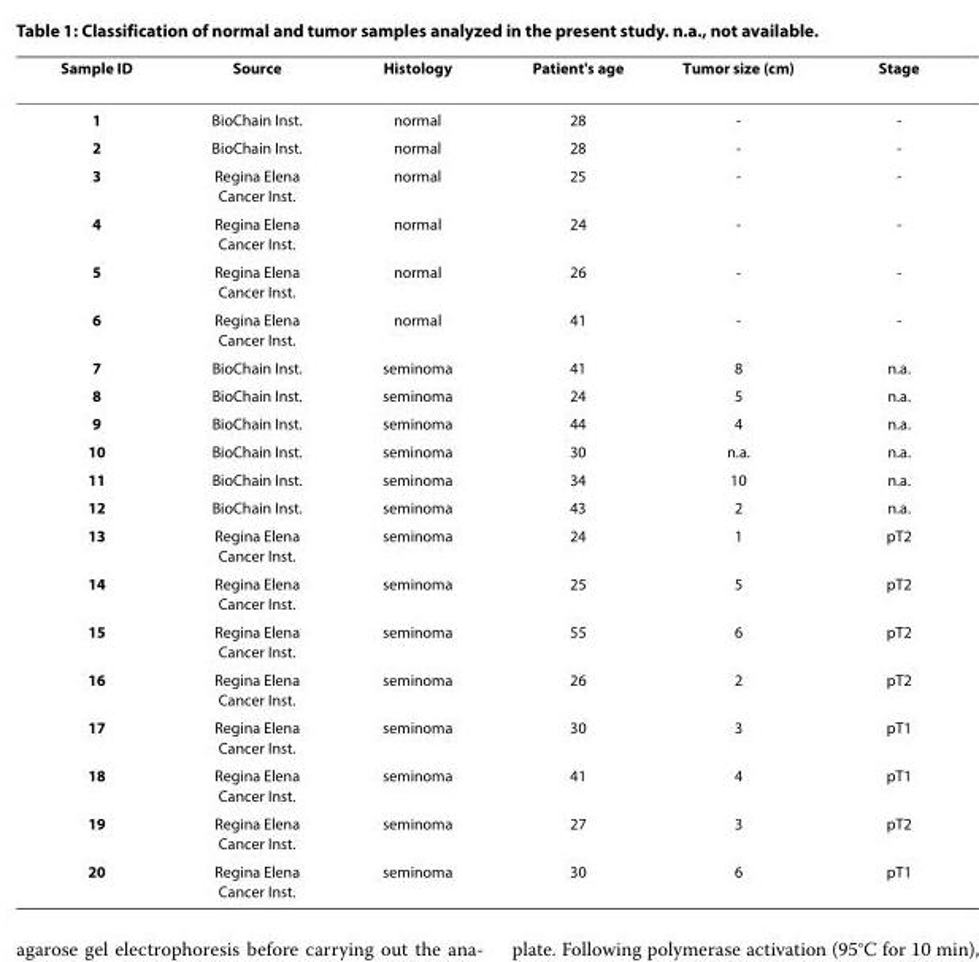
<table><thead><tr><td>Sample ID</td><td>Source</td><td>Histology</td><td>Patient&#x27;s age</td><td>Tumor size (cm)</td><td>Stage</td></tr></thead><tbody><tr><td>1</td><td>BioChain Inst.</td><td>normal</td><td>28</td><td>-</td><td>-</td></tr><tr><td>2</td><td>BioChain Inst.</td><td>normal</td><td>28</td><td>-</td><td>-</td></tr><tr><td>3</td><td>Regina Elena Cancer Inst.</td><td>normal</td><td>25</td><td>-</td><td>-</td></tr><tr><td>4</td><td>Regina Elena Cancer Inst.</td><td>normal</td><td>24</td><td>-</td><td>-</td></tr><tr><td>5</td><td>Regina Elena Cancer Inst.</td><td>normal</td><td>26</td><td>-</td><td>-</td></tr><tr><td>6</td><td>Regina Elena Cancer Inst.</td><td>normal</td><td>41</td><td>-</td><td>-</td></tr><tr><td>7</td><td>BioChain Inst.</td><td>seminoma</td><td>41</td><td>8</td><td>n.a.</td></tr><tr><td>8</td><td>BioChain Inst.</td><td>seminoma</td><td>24</td><td>5</td><td>n.a.</td></tr><tr><td>9</td><td>BioChain Inst.</td><td>seminoma</td><td>44</td><td>4</td><td>n.a.</td></tr><tr><td>10</td><td>BioChain Inst.</td><td>seminoma</td><td>30</td><td>n.a.</td><td>n.a.</td></tr><tr><td>11</td><td>BioChain Inst.</td><td>seminoma</td><td>34</td><td>10</td><td>n.a.</td></tr><tr><td>12</td><td>BioChain Inst.</td><td>seminoma</td><td>43</td><td>2</td><td>n.a.</td></tr><tr><td>13</td><td>Regina Elena Cancer Inst.</td><td>seminoma</td><td>24</td><td>1</td><td>pT2</td></tr><tr><td>14</td><td>Regina Elena Cancer Inst.</td><td>seminoma</td><td>25</td><td>5</td><td>pT2</td></tr><tr><td>15</td><td>Regina Elena Cancer Inst.</td><td>seminoma</td><td>55</td><td>6</td><td>pT2</td></tr><tr><td>16</td><td>Regina Elena Cancer Inst.</td><td>seminoma</td><td>26</td><td>2</td><td>pT2</td></tr><tr><td>17</td><td>Regina Elena Cancer Inst.</td><td>seminoma</td><td>30</td><td>3</td><td>pT1</td></tr><tr><td>18</td><td>Regina Elena Cancer Inst.</td><td>seminoma</td><td>41</td><td>4</td><td>pT1</td></tr><tr><td>19</td><td>Regina Elena Cancer Inst.</td><td>seminoma</td><td>27</td><td>3</td><td>pT2</td></tr><tr><td>20</td><td>Regina Elena Cancer Inst.</td><td>seminoma</td><td>30</td><td>6</td><td>pT1</td></tr></tbody></table>